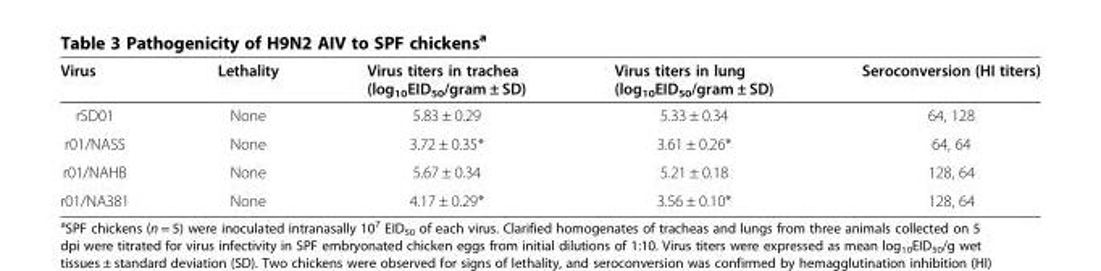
<table><thead><tr><td>Virus</td><td>Lethality</td><td>Virus titers in trachea (log<sub>10</sub>EID<sub>50</sub>/gram ± SD)</td><td>Virus titers in lung (log<sub>10</sub>EID<sub>50</sub>/gram ± SD)</td><td>Seroconversion (HI titers)</td></tr></thead><tbody><tr><td>rSD01</td><td>None</td><td>5.83 ± 0.29</td><td>5.33 ± 0.34</td><td>64, 128</td></tr><tr><td>r01/NASS</td><td>None</td><td>3.72 ± 0.35*</td><td>3.61 ± 0.26*</td><td>64, 64</td></tr><tr><td>r01/NAHB</td><td>None</td><td>5.67 ± 0.34</td><td>5.21 ± 0.18</td><td>128, 64</td></tr><tr><td>r01/NA381</td><td>None</td><td>4.17 ± 0.29*</td><td>3.56 ± 0.10*</td><td>128, 64</td></tr></tbody></table>